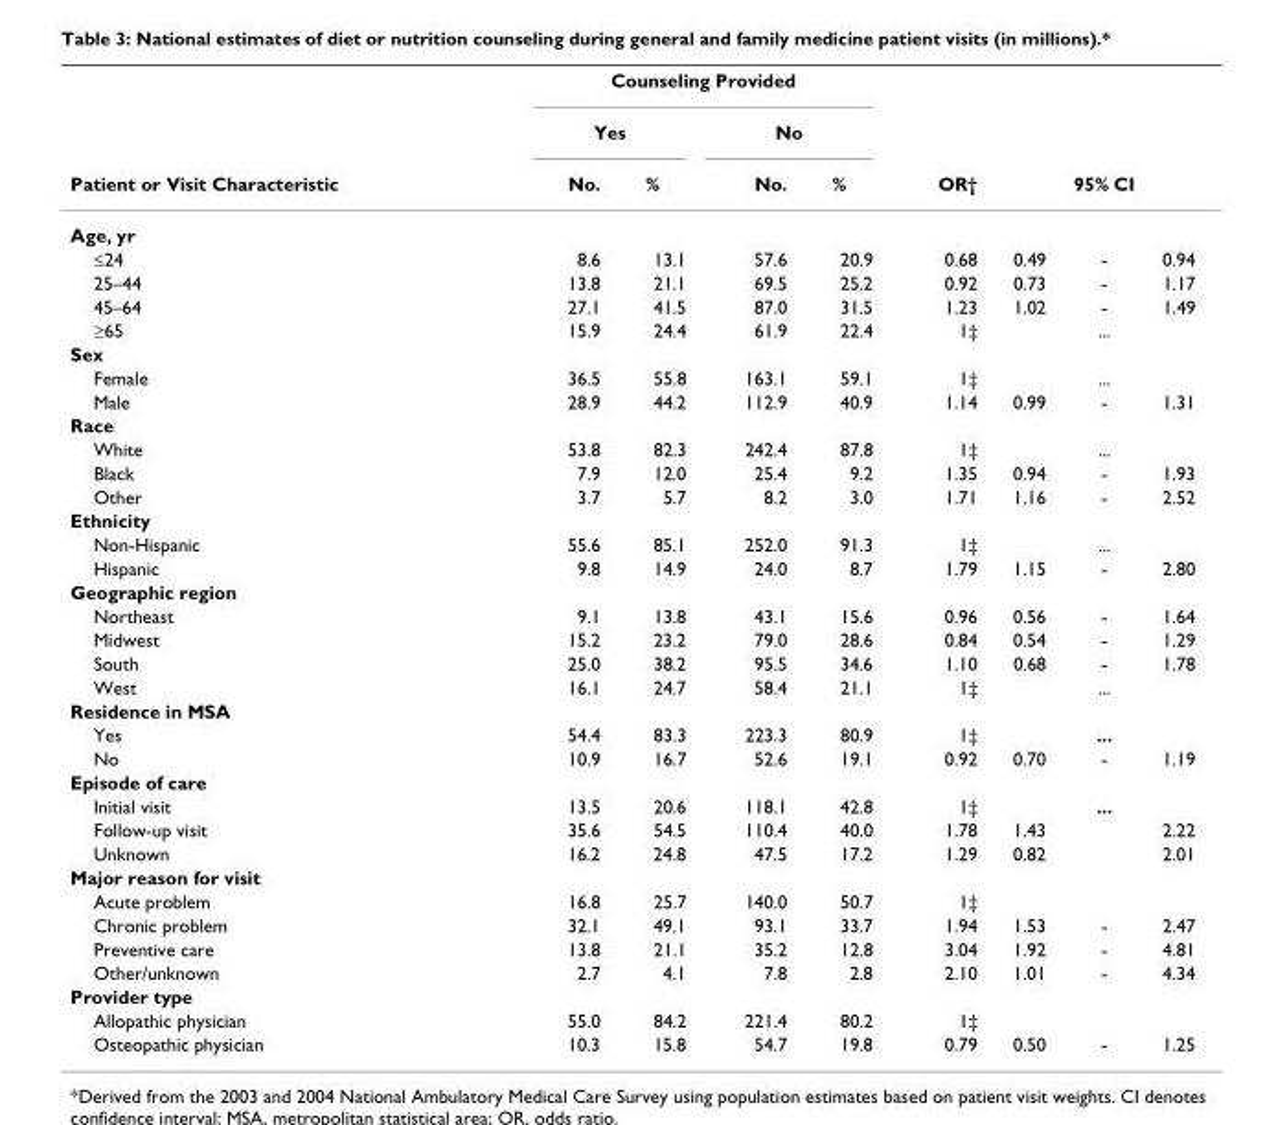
<table><thead><tr><td rowspan="3">Patient or Visit Characteristic</td><td colspan="4">Counseling Provided</td><td rowspan="3">OR†</td><td rowspan="2"></td><td rowspan="2"></td><td rowspan="2"></td></tr><tr><td colspan="2">Yes</td><td colspan="2">No</td></tr><tr><td>No.</td><td>%</td><td>No.</td><td>%</td><td colspan="3">95% CI</td></tr></thead><tbody><tr><td colspan="9">Age, yr</td></tr><tr><td>≤24</td><td>8.6</td><td>13.1</td><td>57.6</td><td>20.9</td><td>0.68</td><td>0.49</td><td>-</td><td>0.94</td></tr><tr><td>25–44</td><td>13.8</td><td>21.1</td><td>69.5</td><td>25.2</td><td>0.92</td><td>0.73</td><td>-</td><td>1.17</td></tr><tr><td>45–64</td><td>27.1</td><td>41.5</td><td>87.0</td><td>31.5</td><td>1.23</td><td>1.02</td><td>-</td><td>1.49</td></tr><tr><td>≥65</td><td>15.9</td><td>24.4</td><td>61.9</td><td>22.4</td><td>1‡</td><td></td><td>...</td><td></td></tr><tr><td colspan="9">Sex</td></tr><tr><td>Female</td><td>36.5</td><td>55.8</td><td>163.1</td><td>59.1</td><td>1‡</td><td></td><td>...</td><td></td></tr><tr><td>Male</td><td>28.9</td><td>44.2</td><td>112.9</td><td>40.9</td><td>1.14</td><td>0.99</td><td>-</td><td>1.31</td></tr><tr><td colspan="9">Race</td></tr><tr><td>White</td><td>53.8</td><td>82.3</td><td>242.4</td><td>87.8</td><td>1‡</td><td></td><td>...</td><td></td></tr><tr><td>Black</td><td>7.9</td><td>12.0</td><td>25.4</td><td>9.2</td><td>1.35</td><td>0.94</td><td>-</td><td>1.93</td></tr><tr><td>Other</td><td>3.7</td><td>5.7</td><td>8.2</td><td>3.0</td><td>1.71</td><td>1.16</td><td>-</td><td>2.52</td></tr><tr><td colspan="9">Ethnicity</td></tr><tr><td>Non-Hispanic</td><td>55.6</td><td>85.1</td><td>252.0</td><td>91.3</td><td>1‡</td><td></td><td>...</td><td></td></tr><tr><td>Hispanic</td><td>9.8</td><td>14.9</td><td>24.0</td><td>8.7</td><td>1.79</td><td>1.15</td><td>-</td><td>2.80</td></tr><tr><td colspan="9">Geographic region</td></tr><tr><td>Northeast</td><td>9.1</td><td>13.8</td><td>43.1</td><td>15.6</td><td>0.96</td><td>0.56</td><td>-</td><td>1.64</td></tr><tr><td>Midwest</td><td>15.2</td><td>23.2</td><td>79.0</td><td>28.6</td><td>0.84</td><td>0.54</td><td>-</td><td>1.29</td></tr><tr><td>South</td><td>25.0</td><td>38.2</td><td>95.5</td><td>34.6</td><td>1.10</td><td>0.68</td><td>-</td><td>1.78</td></tr><tr><td>West</td><td>16.1</td><td>24.7</td><td>58.4</td><td>21.1</td><td>1‡</td><td></td><td>...</td><td></td></tr><tr><td colspan="9">Residence in MSA</td></tr><tr><td>Yes</td><td>54.4</td><td>83.3</td><td>223.3</td><td>80.9</td><td>1‡</td><td></td><td>...</td><td></td></tr><tr><td>No</td><td>10.9</td><td>16.7</td><td>52.6</td><td>19.1</td><td>0.92</td><td>0.70</td><td>-</td><td>1.19</td></tr><tr><td colspan="9">Episode of care</td></tr><tr><td>Initial visit</td><td>13.5</td><td>20.6</td><td>118.1</td><td>42.8</td><td>1‡</td><td></td><td>...</td><td></td></tr><tr><td>Follow-up visit</td><td>35.6</td><td>54.5</td><td>110.4</td><td>40.0</td><td>1.78</td><td>1.43</td><td></td><td>2.22</td></tr><tr><td>Unknown</td><td>16.2</td><td>24.8</td><td>47.5</td><td>17.2</td><td>1.29</td><td>0.82</td><td></td><td>2.01</td></tr><tr><td colspan="9">Major reason for visit</td></tr><tr><td>Acute problem</td><td>16.8</td><td>25.7</td><td>140.0</td><td>50.7</td><td>1‡</td><td></td><td></td><td></td></tr><tr><td>Chronic problem</td><td>32.1</td><td>49.1</td><td>93.1</td><td>33.7</td><td>1.94</td><td>1.53</td><td>-</td><td>2.47</td></tr><tr><td>Preventive care</td><td>13.8</td><td>21.1</td><td>35.2</td><td>12.8</td><td>3.04</td><td>1.92</td><td>-</td><td>4.81</td></tr><tr><td>Other/unknown</td><td>2.7</td><td>4.1</td><td>7.8</td><td>2.8</td><td>2.10</td><td>1.01</td><td>-</td><td>4.34</td></tr><tr><td colspan="9">Provider type</td></tr><tr><td>Allopathic physician</td><td>55.0</td><td>84.2</td><td>221.4</td><td>80.2</td><td>1‡</td><td></td><td></td><td></td></tr><tr><td>Osteopathic physician</td><td>10.3</td><td>15.8</td><td>54.7</td><td>19.8</td><td>0.79</td><td>0.50</td><td>-</td><td>1.25</td></tr></tbody></table>